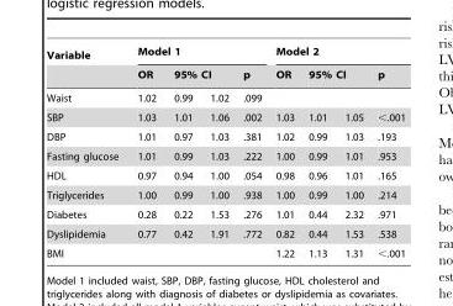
<table><thead><tr><td rowspan="3">Variable Waist</td><td colspan="4">Model 1</td><td colspan="4">Model 2</td></tr><tr><td rowspan="2">OR 1.02</td><td colspan="2">95% CI</td><td rowspan="2">p .099</td><td rowspan="2">OR</td><td colspan="2">95% CI</td><td rowspan="2">p</td></tr><tr><td>0.99</td><td>1.02</td><td></td><td></td></tr></thead><tbody><tr><td>SBP</td><td>1.03</td><td>1.01</td><td>1.06</td><td>.002</td><td>1.03</td><td>1.01</td><td>1.05</td><td>&lt;.001</td></tr><tr><td>DBP</td><td>1.01</td><td>0.97</td><td>1.03</td><td>.381</td><td>1.02</td><td>0.99</td><td>1.03</td><td>.193</td></tr><tr><td>Fasting glucose</td><td>1.01</td><td>0.99</td><td>1.03</td><td>.222</td><td>1.00</td><td>0.99</td><td>1.01</td><td>.953</td></tr><tr><td>HDL</td><td>0.97</td><td>0.94</td><td>1.00</td><td>.054</td><td>0.98</td><td>0.96</td><td>1.01</td><td>.165</td></tr><tr><td>Triglycerides</td><td>1.00</td><td>0.99</td><td>1.00</td><td>.938</td><td>1.00</td><td>0.99</td><td>1.00</td><td>.214</td></tr><tr><td>Diabetes</td><td>0.28</td><td>0.22</td><td>1.53</td><td>.276</td><td>1.01</td><td>0.44</td><td>2.32</td><td>.971</td></tr><tr><td>Dyslipidemia</td><td>0.77</td><td>0.42</td><td>1.91</td><td>.772</td><td>0.82</td><td>0.44</td><td>1.53</td><td>.538</td></tr><tr><td>BMI</td><td></td><td></td><td></td><td></td><td>1.22</td><td>1.13</td><td>1.31</td><td>&lt;.001</td></tr></tbody></table>